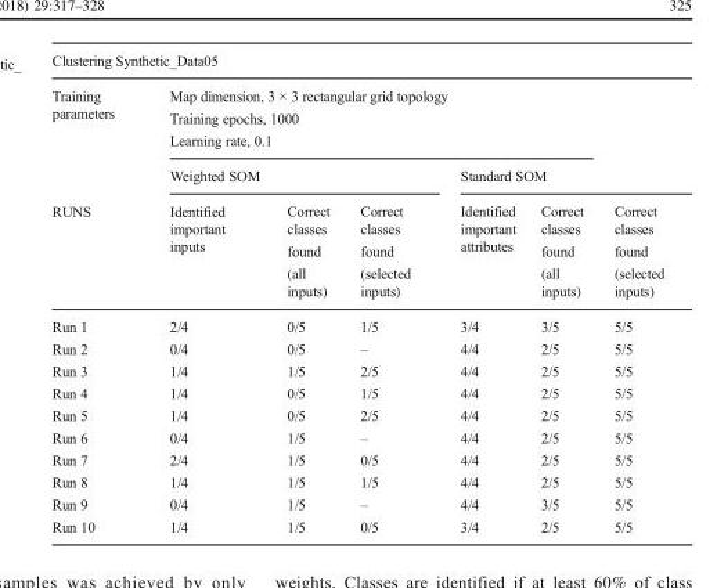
<table><thead><tr><td colspan="7">Clustering Synthetic_Data05</td></tr><tr><td rowspan="3">Training parameters RUNS</td><td colspan="5">Map dimension, 3 × 3 rectangular grid topology Training epochs, 1000 Learning rate, 0.1</td><td></td></tr><tr><td colspan="3">Weighted SOM</td><td colspan="3">Standard SOM</td></tr><tr><td>Identified important inputs</td><td>Correct classes found (all inputs)</td><td>Correct classes found (selected inputs)</td><td>Identified important attributes</td><td>Correct classes found (all inputs)</td><td>Correct classes found (selected inputs)</td></tr></thead><tbody><tr><td>Run 1</td><td>2/4</td><td>0/5</td><td>1/5</td><td>3/4</td><td>3/5</td><td>5/5</td></tr><tr><td>Run 2</td><td>0/4</td><td>0/5</td><td>–</td><td>4/4</td><td>2/5</td><td>5/5</td></tr><tr><td>Run 3</td><td>1/4</td><td>1/5</td><td>2/5</td><td>4/4</td><td>2/5</td><td>5/5</td></tr><tr><td>Run 4</td><td>1/4</td><td>0/5</td><td>1/5</td><td>4/4</td><td>2/5</td><td>5/5</td></tr><tr><td>Run 5</td><td>1/4</td><td>0/5</td><td>2/5</td><td>4/4</td><td>2/5</td><td>5/5</td></tr><tr><td>Run 6</td><td>0/4</td><td>1/5</td><td>–</td><td>4/4</td><td>2/5</td><td>5/5</td></tr><tr><td>Run 7</td><td>2/4</td><td>1/5</td><td>0/5</td><td>4/4</td><td>2/5</td><td>5/5</td></tr><tr><td>Run 8</td><td>1/4</td><td>1/5</td><td>1/5</td><td>4/4</td><td>2/5</td><td>5/5</td></tr><tr><td>Run 9</td><td>0/4</td><td>1/5</td><td>–</td><td>4/4</td><td>3/5</td><td>5/5</td></tr><tr><td>Run 10</td><td>1/4</td><td>1/5</td><td>0/5</td><td>3/4</td><td>2/5</td><td>5/5</td></tr></tbody></table>